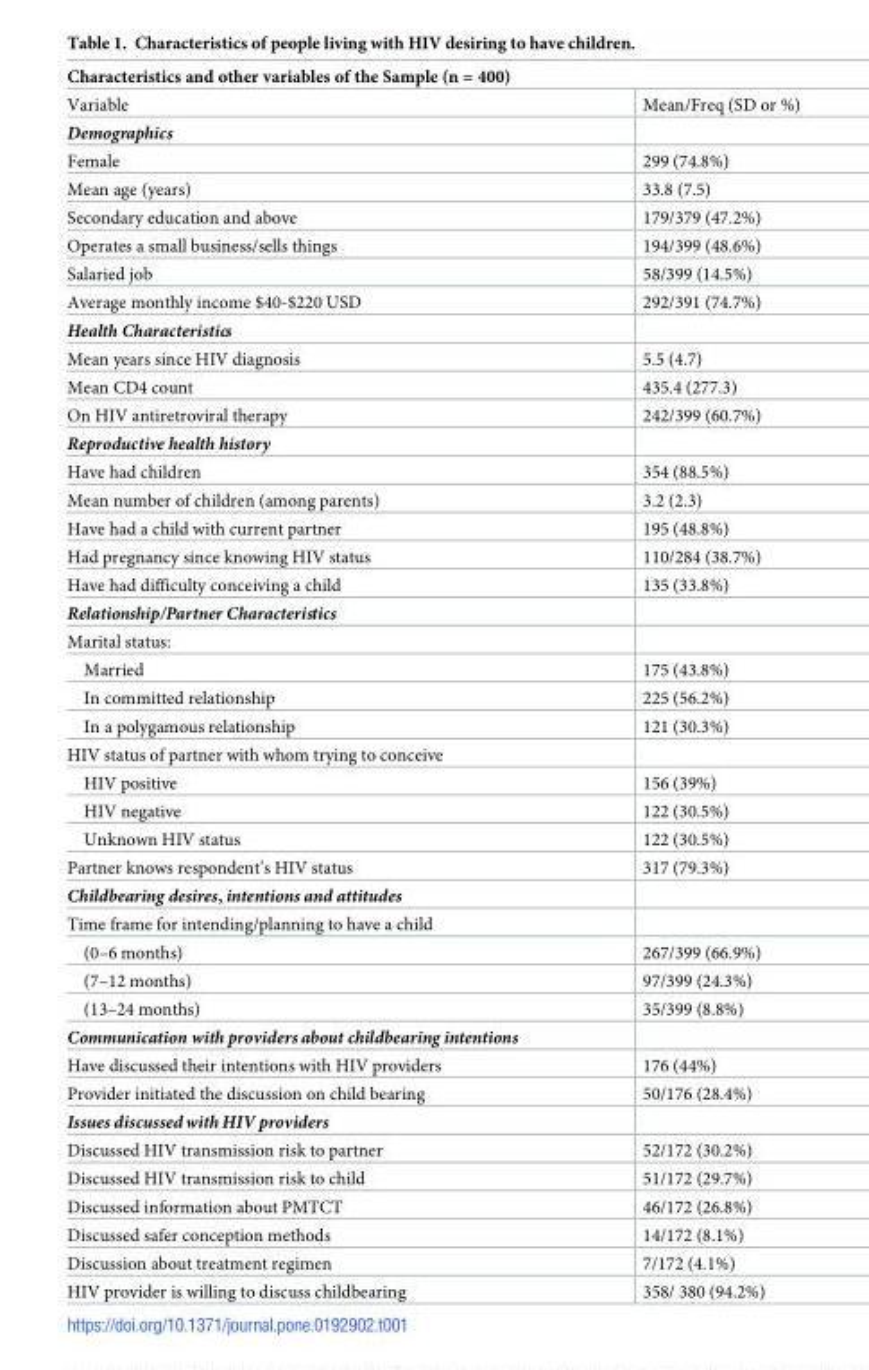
<table><thead><tr><td colspan="2">Characteristics and other variables of the Sample (n = 400)</td></tr><tr><td>Variable</td><td>Mean/Freq (SD or %)</td></tr></thead><tbody><tr><td colspan="2">Demographics</td></tr><tr><td>Female</td><td>299 (74.8%)</td></tr><tr><td>Mean age (years)</td><td>33.8 (7.5)</td></tr><tr><td>Secondary education and above</td><td>179/379 (47.2%)</td></tr><tr><td>Operates a small business/sells things</td><td>194/399 (48.6%)</td></tr><tr><td>Salaried job</td><td>58/399 (14.5%)</td></tr><tr><td>Average monthly income $40-$220 USD</td><td>292/391 (74.7%)</td></tr><tr><td colspan="2">Health Characteristics</td></tr><tr><td>Mean years since HIV diagnosis</td><td>5.5 (4.7)</td></tr><tr><td>Mean CD4 count</td><td>435.4 (277.3)</td></tr><tr><td>On HIV antiretroviral therapy</td><td>242/399 (60.7%)</td></tr><tr><td colspan="2">Reproductive health history</td></tr><tr><td>Have had children</td><td>354 (88.5%)</td></tr><tr><td>Mean number of children (among parents)</td><td>3.2 (2.3)</td></tr><tr><td>Have had a child with current partner</td><td>195 (48.8%)</td></tr><tr><td>Had pregnancy since knowing HIV status</td><td>110/284 (38.7%)</td></tr><tr><td>Have had difficulty conceiving a child</td><td>135 (33.8%)</td></tr><tr><td colspan="2">Relationship/Partner Characteristics</td></tr><tr><td colspan="2">Marital status:</td></tr><tr><td>Married</td><td>175 (43.8%)</td></tr><tr><td>In committed relationship</td><td>225 (56.2%)</td></tr><tr><td>In a polygamous relationship</td><td>121 (30.3%)</td></tr><tr><td colspan="2">HIV status of partner with whom trying to conceive</td></tr><tr><td>HIV positive</td><td>156 (39%)</td></tr><tr><td>HIV negative</td><td>122 (30.5%)</td></tr><tr><td>Unknown HIV status</td><td>122 (30.5%)</td></tr><tr><td>Partner knows respondent’s HIV status</td><td>317 (79.3%)</td></tr><tr><td colspan="2">Childbearing desires, intentions and attitudes</td></tr><tr><td colspan="2">Time frame for intending/planning to have a child</td></tr><tr><td>(0–6 months)</td><td>267/399 (66.9%)</td></tr><tr><td>(7–12 months)</td><td>97/399 (24.3%)</td></tr><tr><td>(13–24 months)</td><td>35/399 (8.8%)</td></tr><tr><td colspan="2">Communication with providers about childbearing intentions</td></tr><tr><td>Have discussed their intentions with HIV providers</td><td>176 (44%)</td></tr><tr><td>Provider initiated the discussion on child bearing</td><td>50/176 (28.4%)</td></tr><tr><td colspan="2">Issues discussedwith HIV providers</td></tr><tr><td>Discussed HIV transmission risk to partner</td><td>52/172 (30.2%)</td></tr><tr><td>Discussed HIV transmission risk to child</td><td>51/172 (29.7%)</td></tr><tr><td>Discussed information about PMTCT</td><td>46/172 (26.8%)</td></tr><tr><td>Discussed safer conception methods</td><td>14/172 (8.1%)</td></tr><tr><td>Discussion about treatment regimen</td><td>7/172 (4.1%)</td></tr><tr><td>HIV provider is willing to discuss childbearing</td><td>358/ 380 (94.2%)</td></tr></tbody></table>